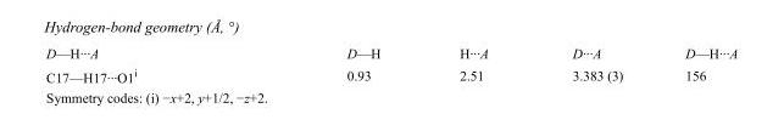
<table><tbody><tr><td>D—H···A</td><td>D—H</td><td>H···A</td><td>D···A</td><td>D—H···A</td></tr><tr><td>C17—H17···O1<sup>i</sup></td><td>0.93</td><td>2.51</td><td>3.383 (3)</td><td>156</td></tr></tbody></table>